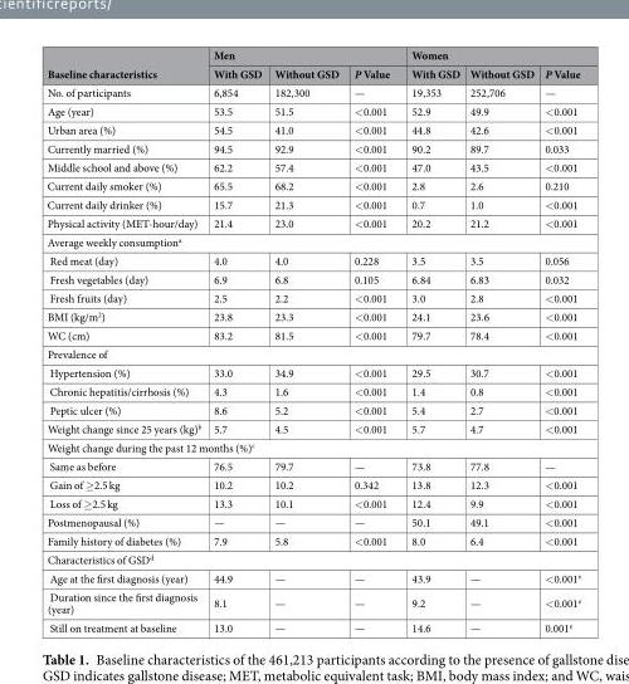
<table><thead><tr><td rowspan="2">Baseline characteristics</td><td colspan="3">Men</td><td colspan="3">Women</td></tr><tr><td>With GSD</td><td>Without GSD</td><td>P Value</td><td>With GSD</td><td>Without GSD</td><td>P Value</td></tr></thead><tbody><tr><td>No. of participants</td><td>6,854</td><td>182,300</td><td>—</td><td>19,353</td><td>252,706</td><td>—</td></tr><tr><td>Age (year)</td><td>53.5</td><td>51.5</td><td>&lt;0.001</td><td>52.9</td><td>49.9</td><td>&lt;0.001</td></tr><tr><td>Urban area (%)</td><td>54.5</td><td>41.0</td><td>&lt;0.001</td><td>44.8</td><td>42.6</td><td>&lt;0.001</td></tr><tr><td>Currently married (%)</td><td>94.5</td><td>92.9</td><td>&lt;0.001</td><td>90.2</td><td>89.7</td><td>0.033</td></tr><tr><td>Middle school and above (%)</td><td>62.2</td><td>57.4</td><td>&lt;0.001</td><td>47.0</td><td>43.5</td><td>&lt;0.001</td></tr><tr><td>Current daily smoker (%)</td><td>65.5</td><td>68.2</td><td>&lt;0.001</td><td>2.8</td><td>2.6</td><td>0.210</td></tr><tr><td>Current daily drinker (%)</td><td>15.7</td><td>21.3</td><td>&lt;0.001</td><td>0.7</td><td>1.0</td><td>&lt;0.001</td></tr><tr><td>Physical activity (MET-hour/day)</td><td>21.4</td><td>23.0</td><td>&lt;0.001</td><td>20.2</td><td>21.2</td><td>&lt;0.001</td></tr><tr><td colspan="7">Average weekly consumption<sup>a</sup></td></tr><tr><td>Red meat (day)</td><td>4.0</td><td>4.0</td><td>0.228</td><td>3.5</td><td>3.5</td><td>0.056</td></tr><tr><td>Fresh vegetables (day)</td><td>6.9</td><td>6.8</td><td>0.105</td><td>6.84</td><td>6.83</td><td>0.032</td></tr><tr><td>Fresh fruits (day)</td><td>2.5</td><td>2.2</td><td>&lt;0.001</td><td>3.0</td><td>2.8</td><td>&lt;0.001</td></tr><tr><td>BMI (kg/m<sup>2</sup>)</td><td>23.8</td><td>23.3</td><td>&lt;0.001</td><td>24.1</td><td>23.6</td><td>&lt;0.001</td></tr><tr><td>WC (cm)</td><td>83.2</td><td>81.5</td><td>&lt;0.001</td><td>79.7</td><td>78.4</td><td>&lt;0.001</td></tr><tr><td colspan="7">Prevalence of</td></tr><tr><td>Hypertension (%)</td><td>33.0</td><td>34.9</td><td>&lt;0.001</td><td>29.5</td><td>30.7</td><td>&lt;0.001</td></tr><tr><td>Chronic hepatitis/cirrhosis (%)</td><td>4.3</td><td>1.6</td><td>&lt;0.001</td><td>1.4</td><td>0.8</td><td>&lt;0.001</td></tr><tr><td>Peptic ulcer (%)</td><td>8.6</td><td>5.2</td><td>&lt;0.001</td><td>5.4</td><td>2.7</td><td>&lt;0.001</td></tr><tr><td>Weight change since 25 years (kg)<sup>b</sup></td><td>5.7</td><td>4.5</td><td>&lt;0.001</td><td>5.7</td><td>4.7</td><td>&lt;0.001</td></tr><tr><td colspan="7">Weight change during the past 12 months (%)<sup>c</sup></td></tr><tr><td>Same as before</td><td>76.5</td><td>79.7</td><td>—</td><td>73.8</td><td>77.8</td><td>—</td></tr><tr><td>Gain of ≥2.5 kg</td><td>10.2</td><td>10.2</td><td>0.342</td><td>13.8</td><td>12.3</td><td>&lt;0.001</td></tr><tr><td>Loss of ≥2.5 kg</td><td>13.3</td><td>10.1</td><td>&lt;0.001</td><td>12.4</td><td>9.9</td><td>&lt;0.001</td></tr><tr><td>Postmenopausal (%)</td><td>—</td><td>—</td><td>—</td><td>50.1</td><td>49.1</td><td>&lt;0.001</td></tr><tr><td>Family history of diabetes (%)</td><td>7.9</td><td>5.8</td><td>&lt;0.001</td><td>8.0</td><td>6.4</td><td>&lt;0.001</td></tr><tr><td colspan="7">Characteristics of GSD<sup>d</sup></td></tr><tr><td>Age at the first diagnosis (year)</td><td>44.9</td><td>—</td><td>—</td><td>43.9</td><td>—</td><td>&lt;0.001<sup>e</sup></td></tr><tr><td>Duration since the first diagnosis (year)</td><td>8.1</td><td>—</td><td>—</td><td>9.2</td><td>—</td><td>&lt;0.001<sup>e</sup></td></tr><tr><td>Still on treatment at baseline</td><td>13.0</td><td>—</td><td>—</td><td>14.6</td><td>—</td><td>0.001<sup>e</sup></td></tr></tbody></table>